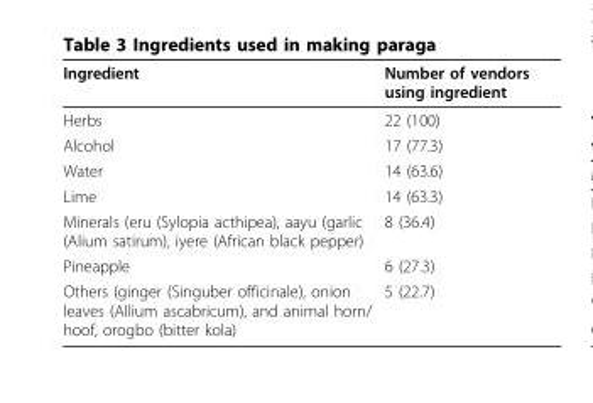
<table><thead><tr><td>Ingredient</td><td>Number of vendors using ingredient</td></tr></thead><tbody><tr><td>Herbs</td><td>22 (100)</td></tr><tr><td>Alcohol</td><td>17 (77.3)</td></tr><tr><td>Water</td><td>14 (63.6)</td></tr><tr><td>Lime</td><td>14 (63.3)</td></tr><tr><td>Minerals (eru (Sylopia acthipea), aayu (garlic (Alium satirum), iyere (African black pepper)</td><td>8 (36.4)</td></tr><tr><td>Pineapple</td><td>6 (27.3)</td></tr><tr><td>Others (ginger (Singuber officinale), onion leaves (Allium ascabricum), and animal horn/ hoof, orogbo (bitter kola)</td><td>5 (22.7)</td></tr></tbody></table>